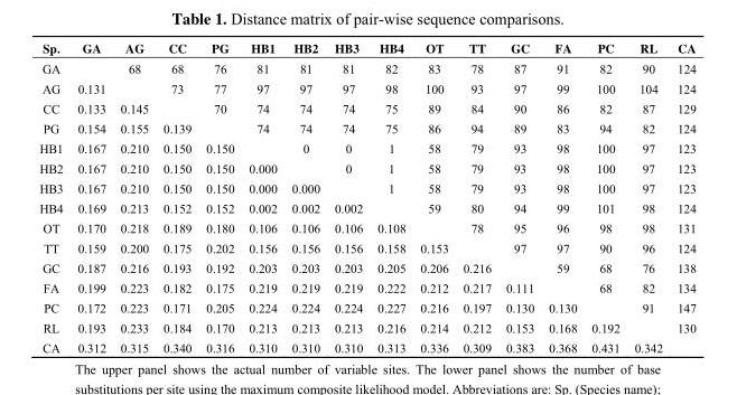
<table><thead><tr><td>Sp.</td><td>GA</td><td>AG</td><td>CC</td><td>PG</td><td>HB1</td><td>HB2</td><td>HB3</td><td>HB4</td><td>OT</td><td>TT</td><td>GC</td><td>FA</td><td>PC</td><td>RL</td><td>CA</td></tr></thead><tbody><tr><td>GA</td><td></td><td>68</td><td>68</td><td>76</td><td>81</td><td>81</td><td>81</td><td>82</td><td>83</td><td>78</td><td>87</td><td>91</td><td>82</td><td>90</td><td>124</td></tr><tr><td>AG</td><td>0.131</td><td></td><td>73</td><td>77</td><td>97</td><td>97</td><td>97</td><td>98</td><td>100</td><td>93</td><td>97</td><td>99</td><td>100</td><td>104</td><td>124</td></tr><tr><td>CC</td><td>0.133</td><td>0.145</td><td></td><td>70</td><td>74</td><td>74</td><td>74</td><td>75</td><td>89</td><td>84</td><td>90</td><td>86</td><td>82</td><td>87</td><td>129</td></tr><tr><td>PG</td><td>0.154</td><td>0.155</td><td>0.139</td><td></td><td>74</td><td>74</td><td>74</td><td>75</td><td>86</td><td>94</td><td>89</td><td>83</td><td>94</td><td>82</td><td>124</td></tr><tr><td>HB1</td><td>0.167</td><td>0.210</td><td>0.150</td><td>0.150</td><td></td><td>0</td><td>0</td><td>1</td><td>58</td><td>79</td><td>93</td><td>98</td><td>100</td><td>97</td><td>123</td></tr><tr><td>HB2</td><td>0.167</td><td>0.210</td><td>0.150</td><td>0.150</td><td>0.000</td><td></td><td>0</td><td>1</td><td>58</td><td>79</td><td>93</td><td>98</td><td>100</td><td>97</td><td>123</td></tr><tr><td>HB3</td><td>0.167</td><td>0.210</td><td>0.150</td><td>0.150</td><td>0.000</td><td>0.000</td><td></td><td>1</td><td>58</td><td>79</td><td>93</td><td>98</td><td>100</td><td>97</td><td>123</td></tr><tr><td>HB4</td><td>0.169</td><td>0.213</td><td>0.152</td><td>0.152</td><td>0.002</td><td>0.002</td><td>0.002</td><td></td><td>59</td><td>80</td><td>94</td><td>99</td><td>101</td><td>98</td><td>124</td></tr><tr><td>OT</td><td>0.170</td><td>0.218</td><td>0.189</td><td>0.180</td><td>0.106</td><td>0.106</td><td>0.106</td><td>0.108</td><td></td><td>78</td><td>95</td><td>96</td><td>98</td><td>98</td><td>131</td></tr><tr><td>TT</td><td>0.159</td><td>0.200</td><td>0.175</td><td>0.202</td><td>0.156</td><td>0.156</td><td>0.156</td><td>0.158</td><td>0.153</td><td></td><td>97</td><td>97</td><td>90</td><td>96</td><td>124</td></tr><tr><td>GC</td><td>0.187</td><td>0.216</td><td>0.193</td><td>0.192</td><td>0.203</td><td>0.203</td><td>0.203</td><td>0.205</td><td>0.206</td><td>0.216</td><td></td><td>59</td><td>68</td><td>76</td><td>138</td></tr><tr><td>FA</td><td>0.199</td><td>0.223</td><td>0.182</td><td>0.175</td><td>0.219</td><td>0.219</td><td>0.219</td><td>0.222</td><td>0.212</td><td>0.217</td><td>0.111</td><td></td><td>68</td><td>82</td><td>134</td></tr><tr><td>PC</td><td>0.172</td><td>0.223</td><td>0.171</td><td>0.205</td><td>0.224</td><td>0.224</td><td>0.224</td><td>0.227</td><td>0.216</td><td>0.197</td><td>0.130</td><td>0.130</td><td></td><td>91</td><td>147</td></tr><tr><td>RL</td><td>0.193</td><td>0.233</td><td>0.184</td><td>0.170</td><td>0.213</td><td>0.213</td><td>0.213</td><td>0.216</td><td>0.214</td><td>0.212</td><td>0.153</td><td>0.168</td><td>0.192</td><td></td><td>130</td></tr><tr><td>CA</td><td>0.312</td><td>0.315</td><td>0.340</td><td>0.316</td><td>0.310</td><td>0.310</td><td>0.310</td><td>0.313</td><td>0.336</td><td>0.309</td><td>0.383</td><td>0.368</td><td>0.431</td><td>0.342</td><td></td></tr></tbody></table>